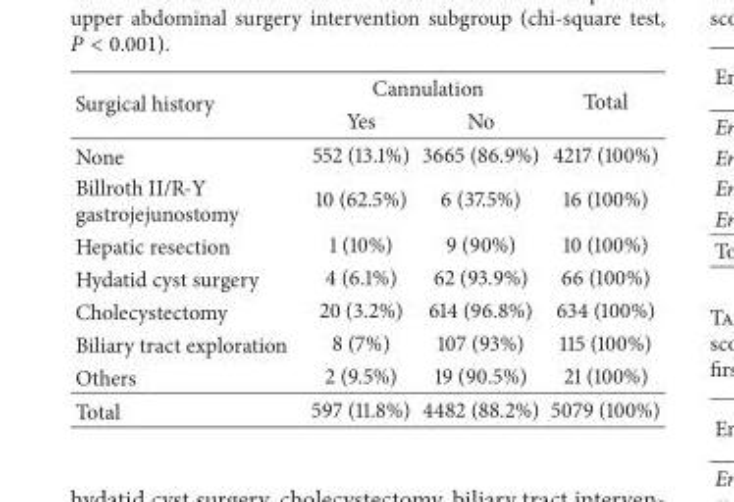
<table><thead><tr><td rowspan="2">Surgical history</td><td colspan="2">Cannulation</td><td rowspan="2">Total</td></tr><tr><td>Yes</td><td>No</td></tr></thead><tbody><tr><td>None</td><td>552 (13.1%)</td><td>3665 (86.9%)</td><td>4217 (100%)</td></tr><tr><td>Billroth II/R-Y gastrojejunostomy</td><td>10 (62.5%)</td><td>6 (37.5%)</td><td>16 (100%)</td></tr><tr><td>Hepatic resection</td><td>1 (10%)</td><td>9 (90%)</td><td>10 (100%)</td></tr><tr><td>Hydatid cyst surgery</td><td>4 (6.1%)</td><td>62 (93.9%)</td><td>66 (100%)</td></tr><tr><td>Cholecystectomy</td><td>20 (3.2%)</td><td>614 (96.8%)</td><td>634 (100%)</td></tr><tr><td>Biliary tract exploration</td><td>8 (7%)</td><td>107 (93%)</td><td>115 (100%)</td></tr><tr><td>Others</td><td>2 (9.5%)</td><td>19 (90.5%)</td><td>21 (100%)</td></tr><tr><td>Total</td><td>597 (11.8%)</td><td>4482 (88.2%)</td><td>5079 (100%)</td></tr></tbody></table>